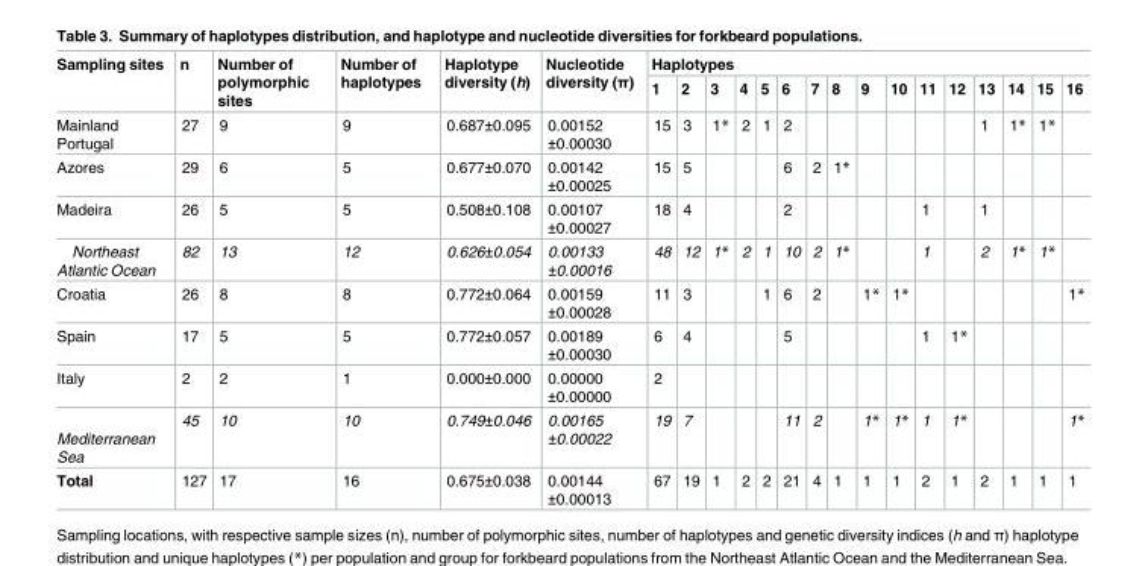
<table><thead><tr><td rowspan="2">Sampling sites</td><td rowspan="2">n</td><td rowspan="2">Number of polymorphic sites</td><td rowspan="2">Number of haplotypes</td><td rowspan="2">Haplotype diversity (h)</td><td rowspan="2">Nucleotide diversity (π)</td><td colspan="16">Haplotypes</td></tr><tr><td>1</td><td>2</td><td>3</td><td>4</td><td>5</td><td>6</td><td>7</td><td>8</td><td>9</td><td>10</td><td>11</td><td>12</td><td>13</td><td>14</td><td>15</td><td>16</td></tr></thead><tbody><tr><td>Mainland Portugal</td><td>27</td><td>9</td><td>9</td><td>0.687±0.095</td><td>0.00152 ±0.00030</td><td>15</td><td>3</td><td>1*</td><td>2</td><td>1</td><td>2</td><td></td><td></td><td></td><td></td><td></td><td></td><td>1</td><td>1*</td><td>1*</td><td></td></tr><tr><td>Azores</td><td>29</td><td>6</td><td>5</td><td>0.677±0.070</td><td>0.00142 ±0.00025</td><td>15</td><td>5</td><td></td><td></td><td></td><td>6</td><td>2</td><td>1*</td><td></td><td></td><td></td><td></td><td></td><td></td><td></td><td></td></tr><tr><td>Madeira</td><td>26</td><td>5</td><td>5</td><td>0.508±0.108</td><td>0.00107 ±0.00027</td><td>18</td><td>4</td><td></td><td></td><td></td><td>2</td><td></td><td></td><td></td><td></td><td>1</td><td></td><td>1</td><td></td><td></td><td></td></tr><tr><td>Northeast Atlantic Ocean</td><td>82</td><td>13</td><td>12</td><td>0.626±0.054</td><td>0.00133 ±0.00016</td><td>48</td><td>12</td><td>1*</td><td>2</td><td>1</td><td>10</td><td>2</td><td>1*</td><td></td><td></td><td>1</td><td></td><td>2</td><td>1*</td><td>1*</td><td></td></tr><tr><td>Croatia</td><td>26</td><td>8</td><td>8</td><td>0.772±0.064</td><td>0.00159 ±0.00028</td><td>11</td><td>3</td><td></td><td></td><td>1</td><td>6</td><td>2</td><td></td><td>1*</td><td>1*</td><td></td><td></td><td></td><td></td><td></td><td>1*</td></tr><tr><td>Spain</td><td>17</td><td>5</td><td>5</td><td>0.772±0.057</td><td>0.00189 ±0.00030</td><td>6</td><td>4</td><td></td><td></td><td></td><td>5</td><td></td><td></td><td></td><td></td><td>1</td><td>1*</td><td></td><td></td><td></td><td></td></tr><tr><td>Italy</td><td>2</td><td>2</td><td>1</td><td>0.000±0.000</td><td>0.00000 ±0.00000</td><td>2</td><td></td><td></td><td></td><td></td><td></td><td></td><td></td><td></td><td></td><td></td><td></td><td></td><td></td><td></td><td></td></tr><tr><td>Mediterranean Sea</td><td>45</td><td>10</td><td>10</td><td>0.749±0.046</td><td>0.00165 ±0.00022</td><td>19</td><td>7</td><td></td><td></td><td></td><td>11</td><td>2</td><td></td><td>1*</td><td>1*</td><td>1</td><td>1*</td><td></td><td></td><td></td><td>1*</td></tr><tr><td>Total</td><td>127</td><td>17</td><td>16</td><td>0.675±0.038</td><td>0.00144 ±0.00013</td><td>67</td><td>19</td><td>1</td><td>2</td><td>2</td><td>21</td><td>4</td><td>1</td><td>1</td><td>1</td><td>2</td><td>1</td><td>2</td><td>1</td><td>1</td><td>1</td></tr></tbody></table>